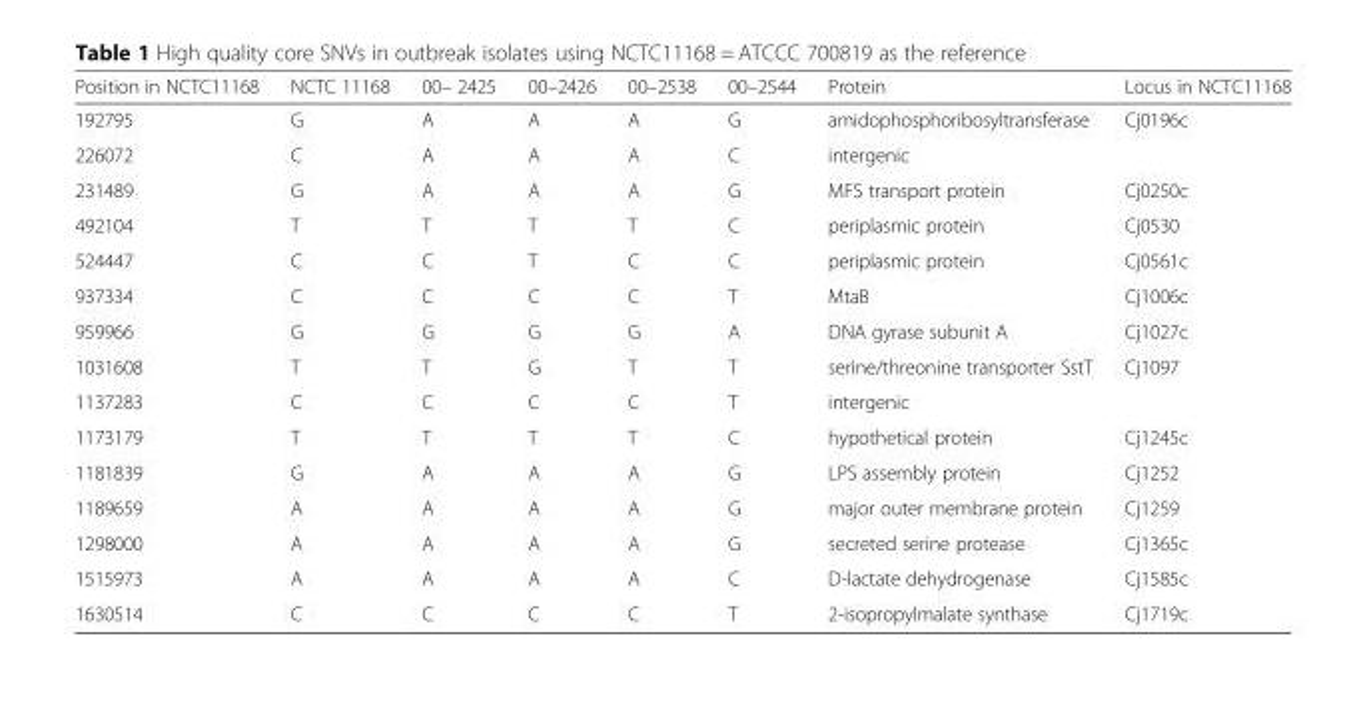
<table><thead><tr><td>Position in NCTC11168</td><td>NCTC 11168</td><td>00– 2425</td><td>00–2426</td><td>00–2538</td><td>00–2544</td><td>Protein</td><td>Locus in NCTC11168</td></tr></thead><tbody><tr><td>192795</td><td>G</td><td>A</td><td>A</td><td>A</td><td>G</td><td>amidophosphoribosyltransferase</td><td>Cj0196c</td></tr><tr><td>226072</td><td>C</td><td>A</td><td>A</td><td>A</td><td>C</td><td>intergenic</td><td></td></tr><tr><td>231489</td><td>G</td><td>A</td><td>A</td><td>A</td><td>G</td><td>MFS transport protein</td><td>Cj0250c</td></tr><tr><td>492104</td><td>T</td><td>T</td><td>T</td><td>T</td><td>C</td><td>periplasmic protein</td><td>Cj0530</td></tr><tr><td>524447</td><td>C</td><td>C</td><td>T</td><td>C</td><td>C</td><td>periplasmic protein</td><td>Cj0561c</td></tr><tr><td>937334</td><td>C</td><td>C</td><td>C</td><td>C</td><td>T</td><td>MtaB</td><td>Cj1006c</td></tr><tr><td>959966</td><td>G</td><td>G</td><td>G</td><td>G</td><td>A</td><td>DNA gyrase subunit A</td><td>Cj1027c</td></tr><tr><td>1031608</td><td>T</td><td>T</td><td>G</td><td>T</td><td>T</td><td>serine/threonine transporter SstT</td><td>Cj1097</td></tr><tr><td>1137283</td><td>C</td><td>C</td><td>C</td><td>C</td><td>T</td><td>intergenic</td><td></td></tr><tr><td>1173179</td><td>T</td><td>T</td><td>T</td><td>T</td><td>C</td><td>hypothetical protein</td><td>Cj1245c</td></tr><tr><td>1181839</td><td>G</td><td>A</td><td>A</td><td>A</td><td>G</td><td>LPS assembly protein</td><td>Cj1252</td></tr><tr><td>1189659</td><td>A</td><td>A</td><td>A</td><td>A</td><td>G</td><td>major outer membrane protein</td><td>Cj1259</td></tr><tr><td>1298000</td><td>A</td><td>A</td><td>A</td><td>A</td><td>G</td><td>secreted serine protease</td><td>Cj1365c</td></tr><tr><td>1515973</td><td>A</td><td>A</td><td>A</td><td>A</td><td>C</td><td>D-lactate dehydrogenase</td><td>Cj1585c</td></tr><tr><td>1630514</td><td>C</td><td>C</td><td>C</td><td>C</td><td>T</td><td>2-isopropylmalate synthase</td><td>Cj1719c</td></tr></tbody></table>